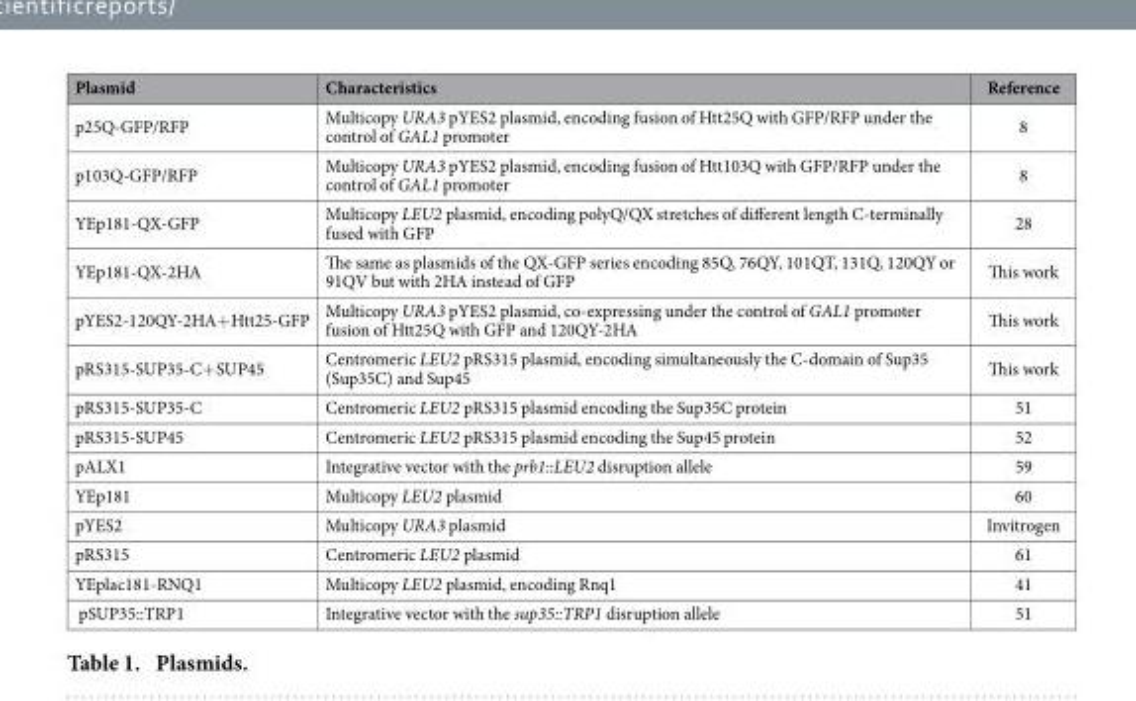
<table><thead><tr><td>Plasmid</td><td>Characteristics</td><td>Reference</td></tr></thead><tbody><tr><td>p25Q-GFP/RFP</td><td>Multicopy URA3 pYES2 plasmid, encoding fusion of Htt25Q with GFP/RFP under the control of GAL1 promoter</td><td>8</td></tr><tr><td>p103Q-GFP/RFP</td><td>Multicopy URA3 pYES2 plasmid, encoding fusion of Htt103Q with GFP/RFP under the control of GAL1 promoter</td><td>8</td></tr><tr><td>YEp181-QX-GFP</td><td>Multicopy LEU2 plasmid, encoding polyQ/QX stretches of different length C-terminally fused with GFP</td><td>28</td></tr><tr><td>YEp181-QX-2HA</td><td>The same as plasmids of the QX-GFP series encoding 85Q, 76QY, 101QT, 131Q, 120QY or 91QV but with 2HA instead of GFP</td><td>This work</td></tr><tr><td>pYES2-120QY-2HA+ Htt25-GFP</td><td>Multicopy URA3 pYES2 plasmid, co-expressing under the control of GAL1 promoter fusion of Htt25Q with GFP and 120QY-2HA</td><td>This work</td></tr><tr><td>pRS315-SUP35-C+ SUP45</td><td>Centromeric LEU2 pRS315 plasmid, encoding simultaneously the C-domain of Sup35 (Sup35C) and Sup45</td><td>This work</td></tr><tr><td>pRS315-SUP35-C</td><td>Centromeric LEU2 pRS315 plasmid encoding the Sup35C protein</td><td>51</td></tr><tr><td>pRS315-SUP45</td><td>Centromeric LEU2 pRS315 plasmid encoding the Sup45 protein</td><td>52</td></tr><tr><td>pALX1</td><td>Integrative vector with the prb1::LEU2 disruption allele</td><td>59</td></tr><tr><td>YEp181</td><td>Multicopy LEU2 plasmid</td><td>60</td></tr><tr><td>pYES2</td><td>Multicopy URA3 plasmid</td><td>Invitrogen</td></tr><tr><td>pRS315</td><td>Centromeric LEU2 plasmid</td><td>61</td></tr><tr><td>YEplac181-RNQ1</td><td>Multicopy LEU2 plasmid, encoding Rnq1</td><td>41</td></tr><tr><td>pSUP35::TRP1</td><td>Integrative vector with the sup35::TRP1 disruption allele</td><td>51</td></tr></tbody></table>